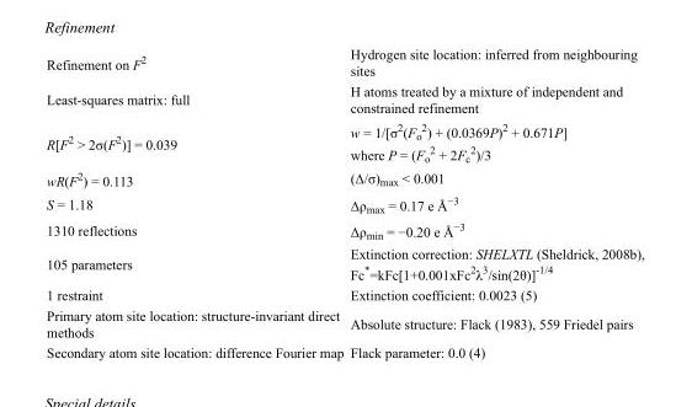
<table><tbody><tr><td>Refinement on F<sup>2</sup></td><td>Hydrogen site location: inferred from neighbouring sites</td></tr><tr><td>Least-squares matrix: full</td><td>H atoms treated by a mixture of independent and constrained refinement</td></tr><tr><td>R[F<sup>2</sup> &gt; 2σ(F<sup>2</sup>)] = 0.039</td><td>w = 1/[σ<sup>2</sup>(F<sub>o</sub> <sup>2</sup>) + (0.0369P)<sup>2</sup> + 0.671P] where P = (F<sub>o</sub> <sup>2</sup> + 2F<sub>c</sub> <sup>2</sup>)/3</td></tr><tr><td>wR(F<sup>2</sup>) = 0.113</td><td>(Δ/σ)<sub>max</sub> &lt; 0.001</td></tr><tr><td>S = 1.18</td><td>Δρ<sub>max</sub> = 0.17 e Å<sup>−3</sup></td></tr><tr><td>1310 reflections</td><td>Δρ<sub>min</sub> = −0.20 e Å<sup>−3</sup></td></tr><tr><td>105 parameters</td><td>Extinction correction: SHELXTL (Sheldrick, 2008b), Fc*=kFc[1+0.001xFc<sup>2</sup>λ<sup>3</sup>/sin(2θ)]<sup>-1/4</sup></td></tr><tr><td>1 restraint</td><td>Extinction coefficient: 0.0023 (5)</td></tr><tr><td>Primary atom site location: structure-invariant direct methods</td><td>Absolute structure: Flack (1983), 559 Friedel pairs</td></tr><tr><td>Secondary atom site location: difference Fourier map</td><td>Flack parameter: 0.0 (4)</td></tr></tbody></table>